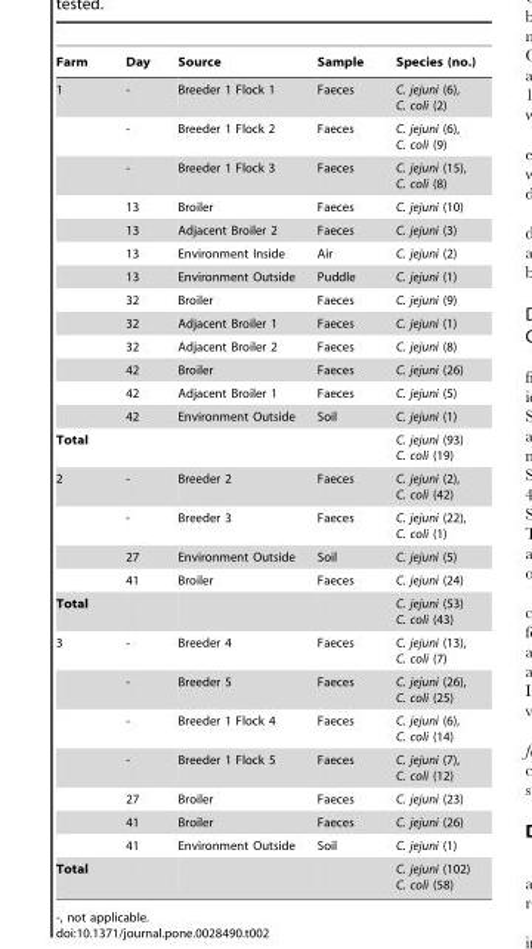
<table><thead><tr><td>Farm</td><td>Day</td><td>Source</td><td>Sample</td><td>Species (no.)</td></tr></thead><tbody><tr><td rowspan="13">1</td><td>-</td><td>Breeder 1 Flock 1</td><td>Faeces</td><td>C. jejuni (6), C. coli (2)</td></tr><tr><td>-</td><td>Breeder 1 Flock 2</td><td>Faeces</td><td>C. jejuni (6), C. coli (9)</td></tr><tr><td>-</td><td>Breeder 1 Flock 3</td><td>Faeces</td><td>C. jejuni (15), C. coli (8)</td></tr><tr><td>13</td><td>Broiler</td><td>Faeces</td><td>C. jejuni (10)</td></tr><tr><td>13</td><td>Adjacent Broiler 2</td><td>Faeces</td><td>C. jejuni (3)</td></tr><tr><td>13</td><td>Environment Inside</td><td>Air</td><td>C. jejuni (2)</td></tr><tr><td>13</td><td>Environment Outside</td><td>Puddle</td><td>C. jejuni (1)</td></tr><tr><td>32</td><td>Broiler</td><td>Faeces</td><td>C. jejuni (9)</td></tr><tr><td>32</td><td>Adjacent Broiler 1</td><td>Faeces</td><td>C. jejuni (1)</td></tr><tr><td>32</td><td>Adjacent Broiler 2</td><td>Faeces</td><td>C. jejuni (8)</td></tr><tr><td>42</td><td>Broiler</td><td>Faeces</td><td>C. jejuni (26)</td></tr><tr><td>42</td><td>Adjacent Broiler 1</td><td>Faeces</td><td>C. jejuni (5)</td></tr><tr><td>42</td><td>Environment Outside</td><td>Soil</td><td>C. jejuni (1)</td></tr><tr><td colspan="4">Total</td><td>C. jejuni (93) C. coli (19)</td></tr><tr><td rowspan="4">2</td><td>-</td><td>Breeder 2</td><td>Faeces</td><td>C. jejuni (2), C. coli (42)</td></tr><tr><td>-</td><td>Breeder 3</td><td>Faeces</td><td>C. jejuni (22), C. coli (1)</td></tr><tr><td>27</td><td>Environment Outside</td><td>Soil</td><td>C. jejuni (5)</td></tr><tr><td>41</td><td>Broiler</td><td>Faeces</td><td>C. jejuni (24)</td></tr><tr><td>Total</td><td></td><td></td><td></td><td>C. jejuni (53) C. coli (43)</td></tr><tr><td rowspan="7">3</td><td>-</td><td>Breeder 4</td><td>Faeces</td><td>C. jejuni (13), C. coli (7)</td></tr><tr><td>-</td><td>Breeder 5</td><td>Faeces</td><td>C. jejuni (26), C. coli (25)</td></tr><tr><td>-</td><td>Breeder 1 Flock 4</td><td>Faeces</td><td>C. jejuni (6), C. coli (14)</td></tr><tr><td>-</td><td>Breeder 1 Flock 5</td><td>Faeces</td><td>C. jejuni (7), C. coli (12)</td></tr><tr><td>27</td><td>Broiler</td><td>Faeces</td><td>C. jejuni (23)</td></tr><tr><td>41</td><td>Broiler</td><td>Faeces</td><td>C. jejuni (26)</td></tr><tr><td>41</td><td>Environment Outside</td><td>Soil</td><td>C. jejuni (1)</td></tr><tr><td>Total</td><td></td><td></td><td></td><td>C. jejuni (102) C. coli (58)</td></tr></tbody></table>